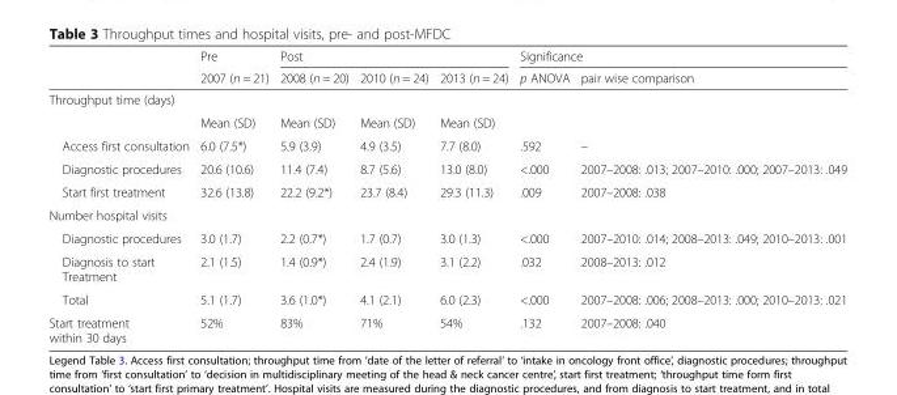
<table><thead><tr><td rowspan="2"></td><td rowspan="2">Pre 2007 (n = 21)</td><td colspan="3">Post</td><td colspan="2">Significance</td></tr><tr><td>2008 (n = 20)</td><td>2010 (n = 24)</td><td>2013 (n = 24)</td><td>p ANOVA</td><td>pair wise comparison</td></tr></thead><tbody><tr><td colspan="7">Throughput time (days)</td></tr><tr><td></td><td>Mean (SD)</td><td>Mean (SD)</td><td>Mean (SD)</td><td>Mean (SD)</td><td></td><td></td></tr><tr><td>Access first consultation</td><td>6.0 (7.5*)</td><td>5.9 (3.9)</td><td>4.9 (3.5)</td><td>7.7 (8.0)</td><td>.592</td><td>–</td></tr><tr><td>Diagnostic procedures</td><td>20.6 (10.6)</td><td>11.4 (7.4)</td><td>8.7 (5.6)</td><td>13.0 (8.0)</td><td>&lt;.000</td><td>2007–2008: .013; 2007–2010: .000; 2007–2013: .049</td></tr><tr><td>Start first treatment</td><td>32.6 (13.8)</td><td>22.2 (9.2*)</td><td>23.7 (8.4)</td><td>29.3 (11.3)</td><td>.009</td><td>2007–2008: .038</td></tr><tr><td colspan="7">Number hospital visits</td></tr><tr><td>Diagnostic procedures</td><td>3.0 (1.7)</td><td>2.2 (0.7*)</td><td>1.7 (0.7)</td><td>3.0 (1.3)</td><td>&lt;.000</td><td>2007–2010: .014; 2008–2013: .049; 2010–2013: .001</td></tr><tr><td>Diagnosis to start Treatment</td><td>2.1 (1.5)</td><td>1.4 (0.9*)</td><td>2.4 (1.9)</td><td>3.1 (2.2)</td><td>.032</td><td>2008–2013: .012</td></tr><tr><td>Total</td><td>5.1 (1.7)</td><td>3.6 (1.0*)</td><td>4.1 (2.1)</td><td>6.0 (2.3)</td><td>&lt;.000</td><td>2007–2008: .006; 2008–2013: .000; 2010–2013: .021</td></tr><tr><td>Start treatment within 30 days</td><td>52%</td><td>83%</td><td>71%</td><td>54%</td><td>.132</td><td>2007–2008: .040</td></tr></tbody></table>